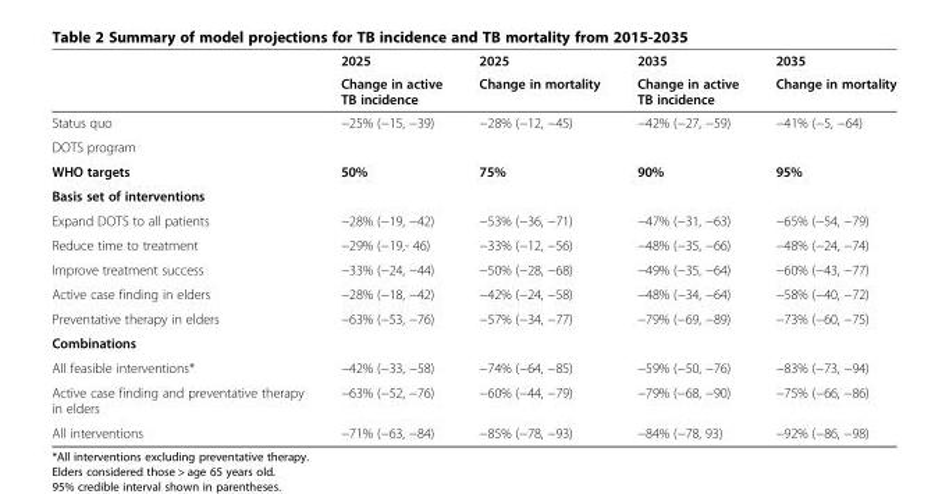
<table><thead><tr><td rowspan="2"></td><td rowspan="2">2025 Change in active TB incidence</td><td rowspan="2">2025 Change in mortality</td><td rowspan="2">2035 Change in active TB incidence</td><td rowspan="2">2035 Change in mortality</td></tr><tr></tr></thead><tbody><tr><td>Status quo</td><td rowspan="2">−25% (−15, −39)</td><td rowspan="2">−28% (−12, −45)</td><td rowspan="2">−42% (−27, −59)</td><td rowspan="2">−41% (−5, −64)</td></tr><tr><td>DOTS program</td></tr><tr><td>WHO targets</td><td>50%</td><td>75%</td><td>90%</td><td>95%</td></tr><tr><td colspan="5">Basis set of interventions</td></tr><tr><td>Expand DOTS to all patients</td><td>−28% (−19, −42)</td><td>−53% (−36, −71)</td><td>−47% (−31, −63)</td><td>−65% (−54, −79)</td></tr><tr><td>Reduce time to treatment</td><td>−29% (−19,- 46)</td><td>−33% (−12, −56)</td><td>−48% (−35, −66)</td><td>−48% (−24, −74)</td></tr><tr><td>Improve treatment success</td><td>−33% (−24, −44)</td><td>−50% (−28, −68)</td><td>−49% (−35, −64)</td><td>−60% (−43, −77)</td></tr><tr><td>Active case finding in elders</td><td>−28% (−18, −42)</td><td>−42% (−24, −58)</td><td>−48% (−34, −64)</td><td>−58% (−40, −72)</td></tr><tr><td>Preventative therapy in elders</td><td>−63% (−53, −76)</td><td>−57% (−34, −77)</td><td>−79% (−69, −89)</td><td>−73% (−60, −75)</td></tr><tr><td colspan="5">Combinations</td></tr><tr><td>All feasible interventions*</td><td>−42% (−33, −58)</td><td>−74% (−64, −85)</td><td>−59% (−50, −76)</td><td>−83% (−73, −94)</td></tr><tr><td>Active case finding and preventative therapy in elders</td><td>−63% (−52, −76)</td><td>−60% (−44, −79)</td><td>−79% (−68, −90)</td><td>−75% (−66, −86)</td></tr><tr><td>All interventions</td><td>−71% (−63, −84)</td><td>−85% (−78, −93)</td><td>−84% (−78, 93)</td><td>−92% (−86, −98)</td></tr></tbody></table>